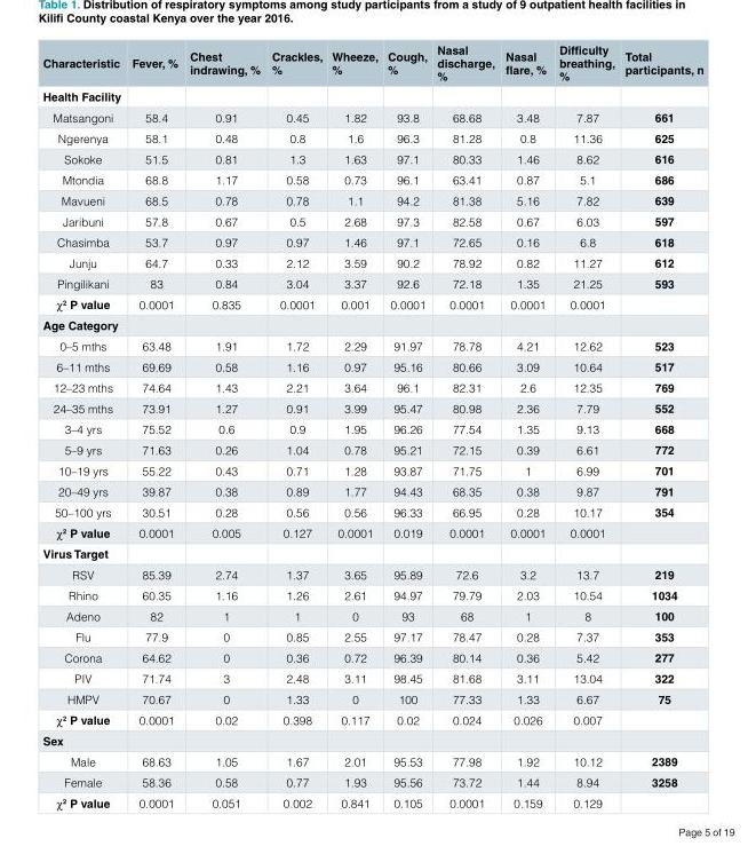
<table><thead><tr><td>Characteristic</td><td>Fever, %</td><td>Chest indrawing, %</td><td>Crackles, %</td><td>Wheeze, %</td><td>Cough, %</td><td>Nasal discharge, %</td><td>Nasal flare, %</td><td>Difficulty breathing, %</td><td>Total participants, n</td></tr></thead><tbody><tr><td colspan="10">Health Facility</td></tr><tr><td>Matsangoni</td><td>58.4</td><td>0.91</td><td>0.45</td><td>1.82</td><td>93.8</td><td>68.68</td><td>3.48</td><td>7.87</td><td>661</td></tr><tr><td>Ngerenya</td><td>58.1</td><td>0.48</td><td>0.8</td><td>1.6</td><td>96.3</td><td>81.28</td><td>0.8</td><td>11.36</td><td>625</td></tr><tr><td>Sokoke</td><td>51.5</td><td>0.81</td><td>1.3</td><td>1.63</td><td>97.1</td><td>80.33</td><td>1.46</td><td>8.62</td><td>616</td></tr><tr><td>Mtondia</td><td>68.8</td><td>1.17</td><td>0.58</td><td>0.73</td><td>96.1</td><td>63.41</td><td>0.87</td><td>5.1</td><td>686</td></tr><tr><td>Mavueni</td><td>68.5</td><td>0.78</td><td>0.78</td><td>1.1</td><td>94.2</td><td>81.38</td><td>5.16</td><td>7.82</td><td>639</td></tr><tr><td>Jaribuni</td><td>57.8</td><td>0.67</td><td>0.5</td><td>2.68</td><td>97.3</td><td>82.58</td><td>0.67</td><td>6.03</td><td>597</td></tr><tr><td>Chasimba</td><td>53.7</td><td>0.97</td><td>0.97</td><td>1.46</td><td>97.1</td><td>72.65</td><td>0.16</td><td>6.8</td><td>618</td></tr><tr><td>Junju</td><td>64.7</td><td>0.33</td><td>2.12</td><td>3.59</td><td>90.2</td><td>78.92</td><td>0.82</td><td>11.27</td><td>612</td></tr><tr><td>Pingilikani</td><td>83</td><td>0.84</td><td>3.04</td><td>3.37</td><td>92.6</td><td>72.18</td><td>1.35</td><td>21.25</td><td>593</td></tr><tr><td>χ<sup>2</sup> P value</td><td>0.0001</td><td>0.835</td><td>0.0001</td><td>0.001</td><td>0.0001</td><td>0.0001</td><td>0.0001</td><td>0.0001</td><td></td></tr><tr><td colspan="10">Age Category</td></tr><tr><td>0–5 mths</td><td>63.48</td><td>1.91</td><td>1.72</td><td>2.29</td><td>91.97</td><td>78.78</td><td>4.21</td><td>12.62</td><td>523</td></tr><tr><td>6–11 mths</td><td>69.69</td><td>0.58</td><td>1.16</td><td>0.97</td><td>95.16</td><td>80.66</td><td>3.09</td><td>10.64</td><td>517</td></tr><tr><td>12–23 mths</td><td>74.64</td><td>1.43</td><td>2.21</td><td>3.64</td><td>96.1</td><td>82.31</td><td>2.6</td><td>12.35</td><td>769</td></tr><tr><td>24–35 mths</td><td>73.91</td><td>1.27</td><td>0.91</td><td>3.99</td><td>95.47</td><td>80.98</td><td>2.36</td><td>7.79</td><td>552</td></tr><tr><td>3–4 yrs</td><td>75.52</td><td>0.6</td><td>0.9</td><td>1.95</td><td>96.26</td><td>77.54</td><td>1.35</td><td>9.13</td><td>668</td></tr><tr><td>5–9 yrs</td><td>71.63</td><td>0.26</td><td>1.04</td><td>0.78</td><td>95.21</td><td>72.15</td><td>0.39</td><td>6.61</td><td>772</td></tr><tr><td>10–19 yrs</td><td>55.22</td><td>0.43</td><td>0.71</td><td>1.28</td><td>93.87</td><td>71.75</td><td>1</td><td>6.99</td><td>701</td></tr><tr><td>20–49 yrs</td><td>39.87</td><td>0.38</td><td>0.89</td><td>1.77</td><td>94.43</td><td>68.35</td><td>0.38</td><td>9.87</td><td>791</td></tr><tr><td>50–100 yrs</td><td>30.51</td><td>0.28</td><td>0.56</td><td>0.56</td><td>96.33</td><td>66.95</td><td>0.28</td><td>10.17</td><td>354</td></tr><tr><td>χ<sup>2</sup> P value</td><td>0.0001</td><td>0.005</td><td>0.127</td><td>0.0001</td><td>0.019</td><td>0.0001</td><td>0.0001</td><td>0.0001</td><td></td></tr><tr><td colspan="10">Virus Target</td></tr><tr><td>RSV</td><td>85.39</td><td>2.74</td><td>1.37</td><td>3.65</td><td>95.89</td><td>72.6</td><td>3.2</td><td>13.7</td><td>219</td></tr><tr><td>Rhino</td><td>60.35</td><td>1.16</td><td>1.26</td><td>2.61</td><td>94.97</td><td>79.79</td><td>2.03</td><td>10.54</td><td>1034</td></tr><tr><td>Adeno</td><td>82</td><td>1</td><td>1</td><td>0</td><td>93</td><td>68</td><td>1</td><td>8</td><td>100</td></tr><tr><td>Flu</td><td>77.9</td><td>0</td><td>0.85</td><td>2.55</td><td>97.17</td><td>78.47</td><td>0.28</td><td>7.37</td><td>353</td></tr><tr><td>Corona</td><td>64.62</td><td>0</td><td>0.36</td><td>0.72</td><td>96.39</td><td>80.14</td><td>0.36</td><td>5.42</td><td>277</td></tr><tr><td>PIV</td><td>71.74</td><td>3</td><td>2.48</td><td>3.11</td><td>98.45</td><td>81.68</td><td>3.11</td><td>13.04</td><td>322</td></tr><tr><td>HMPV</td><td>70.67</td><td>0</td><td>1.33</td><td>0</td><td>100</td><td>77.33</td><td>1.33</td><td>6.67</td><td>75</td></tr><tr><td>χ<sup>2</sup> P value</td><td>0.0001</td><td>0.02</td><td>0.398</td><td>0.117</td><td>0.02</td><td>0.024</td><td>0.026</td><td>0.007</td><td></td></tr><tr><td colspan="10">Sex</td></tr><tr><td>Male</td><td>68.63</td><td>1.05</td><td>1.67</td><td>2.01</td><td>95.53</td><td>77.98</td><td>1.92</td><td>10.12</td><td>2389</td></tr><tr><td>Female</td><td>58.36</td><td>0.58</td><td>0.77</td><td>1.93</td><td>95.56</td><td>73.72</td><td>1.44</td><td>8.94</td><td>3258</td></tr><tr><td>χ<sup>2</sup> P value</td><td>0.0001</td><td>0.051</td><td>0.002</td><td>0.841</td><td>0.105</td><td>0.0001</td><td>0.159</td><td>0.129</td><td></td></tr></tbody></table>